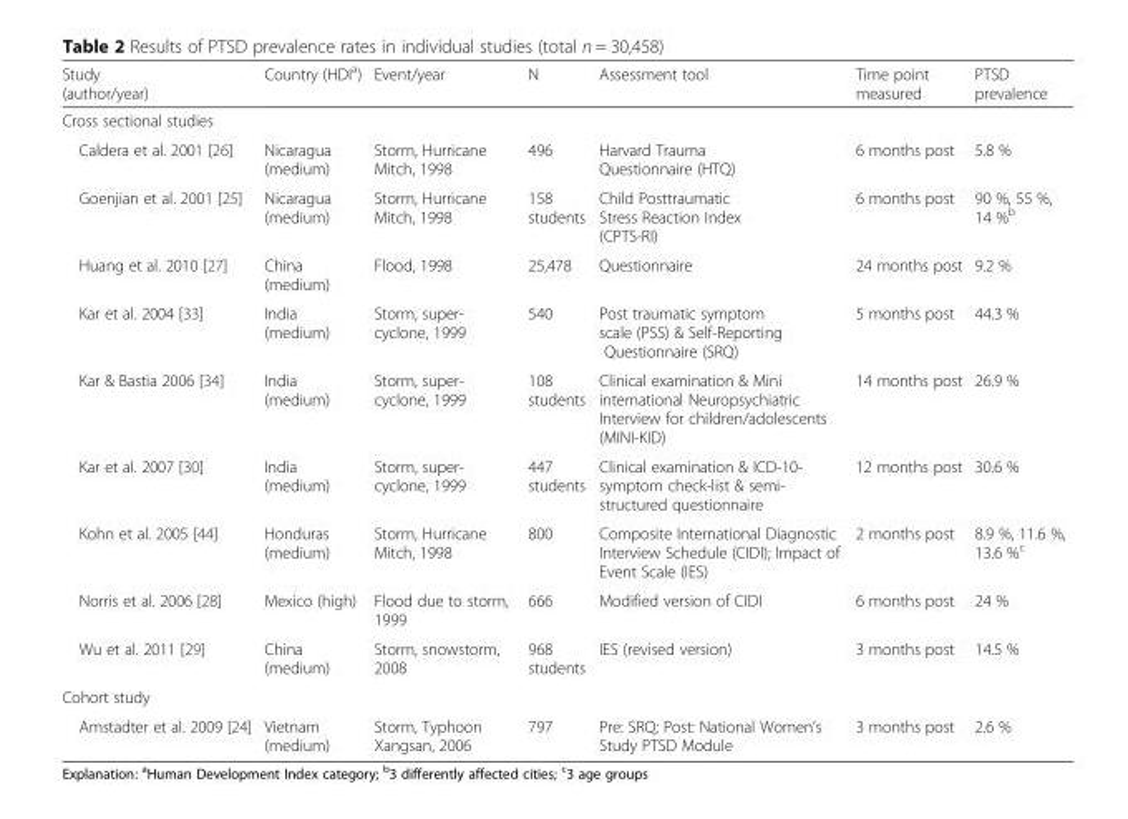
<table><thead><tr><td>Study (author/year)</td><td>Country (HDI<sup>a</sup>)</td><td>Event/year</td><td>N</td><td>Assessment tool</td><td>Time point measured</td><td>PTSD prevalence</td></tr></thead><tbody><tr><td colspan="7">Cross sectional studies</td></tr><tr><td>Caldera et al. 2001 [26]</td><td>Nicaragua (medium)</td><td>Storm, Hurricane Mitch, 1998</td><td>496</td><td>Harvard Trauma Questionnaire (HTQ)</td><td>6 months post</td><td>5.8 %</td></tr><tr><td>Goenjian et al. 2001 [25]</td><td>Nicaragua (medium)</td><td>Storm, Hurricane Mitch, 1998</td><td>158 students</td><td>Child Posttraumatic Stress Reaction Index (CPTS-RI)</td><td>6 months post</td><td>90 %, 55 %, 14 %<sup>b</sup></td></tr><tr><td>Huang et al. 2010 [27]</td><td>China (medium)</td><td>Flood, 1998</td><td>25,478</td><td>Questionnaire</td><td>24 months post</td><td>9.2 %</td></tr><tr><td>Kar et al. 2004 [33]</td><td>India (medium)</td><td>Storm, super- cyclone, 1999</td><td>540</td><td>Post traumatic symptom scale (PSS) &amp; Self-Reporting Questionnaire (SRQ)</td><td>5 months post</td><td>44.3 %</td></tr><tr><td>Kar &amp; Bastia 2006 [34]</td><td>India (medium)</td><td>Storm, super- cyclone, 1999</td><td>108 students</td><td>Clinical examination &amp; Mini international Neuropsychiatric Interview for children/adolescents (MINI-KID)</td><td>14 months post</td><td>26.9 %</td></tr><tr><td>Kar et al. 2007 [30]</td><td>India (medium)</td><td>Storm, super- cyclone, 1999</td><td>447 students</td><td>Clinical examination &amp; ICD-10- symptom check-list &amp; semi- structured questionnaire</td><td>12 months post</td><td>30.6 %</td></tr><tr><td>Kohn et al. 2005 [44]</td><td>Honduras (medium)</td><td>Storm, Hurricane Mitch, 1998</td><td>800</td><td>Composite International Diagnostic Interview Schedule (CIDI); Impact of Event Scale (IES)</td><td>2 months post</td><td>8.9 %, 11.6 %, 13.6 %<sup>c</sup></td></tr><tr><td>Norris et al. 2006 [28]</td><td>Mexico (high)</td><td>Flood due to storm, 1999</td><td>666</td><td>Modified version of CIDI</td><td>6 months post</td><td>24 %</td></tr><tr><td>Wu et al. 2011 [29]</td><td>China (medium)</td><td>Storm, snowstorm, 2008</td><td>968 students</td><td>IES (revised version)</td><td>3 months post</td><td>14.5 %</td></tr><tr><td colspan="7">Cohort study</td></tr><tr><td>Amstadter et al. 2009 [24]</td><td>Vietnam (medium)</td><td>Storm, Typhoon Xangsan, 2006</td><td>797</td><td>Pre: SRQ; Post: National Women’s Study PTSD Module</td><td>3 months post</td><td>2.6 %</td></tr></tbody></table>